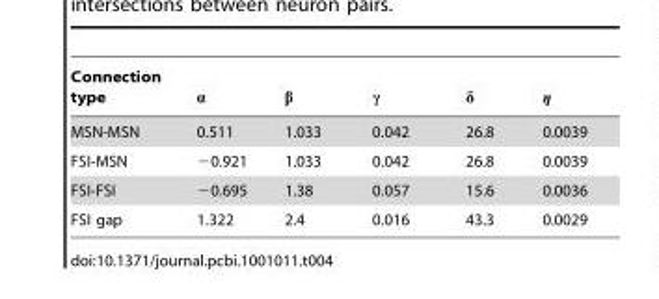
<table><thead><tr><td>Connection type</td><td>a</td><td>b</td><td>c</td><td>d</td><td>η</td></tr></thead><tbody><tr><td>MSN-MSN</td><td>0.511</td><td>1.033</td><td>0.042</td><td>26.8</td><td>0.0039</td></tr><tr><td>FSI-MSN</td><td>−0.921</td><td>1.033</td><td>0.042</td><td>26.8</td><td>0.0039</td></tr><tr><td>FSI-FSI</td><td>−0.695</td><td>1.38</td><td>0.057</td><td>15.6</td><td>0.0036</td></tr><tr><td>FSI gap</td><td>1.322</td><td>2.4</td><td>0.016</td><td>43.3</td><td>0.0029</td></tr></tbody></table>